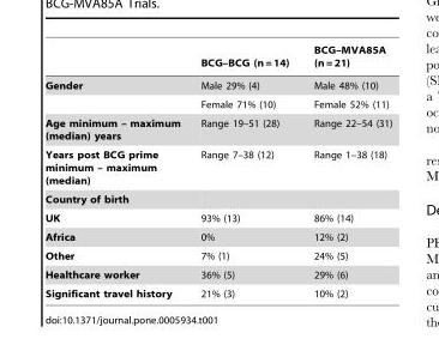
<table><thead><tr><td></td><td>BCG–BCG (n = 14)</td><td>BCG–MVA85A (n = 21)</td></tr></thead><tbody><tr><td rowspan="2">Gender</td><td>Male 29% (4)</td><td>Male 48% (10)</td></tr><tr><td>Female 71% (10)</td><td>Female 52% (11)</td></tr><tr><td>Age minimum – maximum (median) years</td><td>Range 19–51 (28)</td><td>Range 22–54 (31)</td></tr><tr><td>Years post BCG prime minimum – maximum (median)</td><td>Range 7–38 (12)</td><td>Range 1–38 (18)</td></tr><tr><td colspan="3">Country of birth</td></tr><tr><td>UK</td><td>93% (13)</td><td>86% (14)</td></tr><tr><td>Africa</td><td>0%</td><td>12% (2)</td></tr><tr><td>Other</td><td>7% (1)</td><td>24% (5)</td></tr><tr><td>Healthcare worker</td><td>36% (5)</td><td>29% (6)</td></tr><tr><td>Significant travel history</td><td>21% (3)</td><td>10% (2)</td></tr></tbody></table>